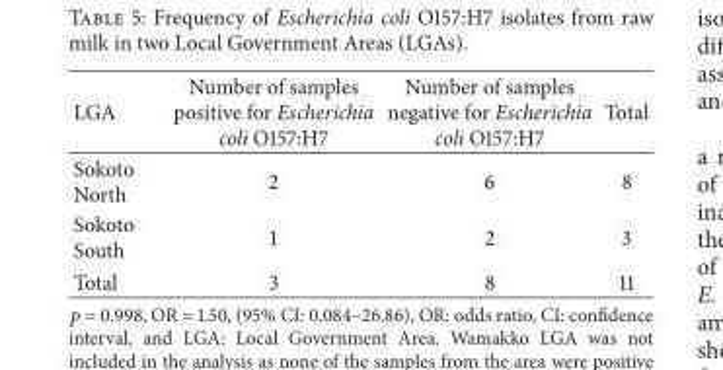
<table><thead><tr><td>LGA</td><td>Number of samples positive for Escherichia coli O157:H7</td><td>Number of samples negative for Escherichia coli O157:H7</td><td>Total</td></tr></thead><tbody><tr><td>Sokoto North</td><td>2</td><td>6</td><td>8</td></tr><tr><td>Sokoto South</td><td>1</td><td>2</td><td>3</td></tr><tr><td>Total</td><td>3</td><td>8</td><td>11</td></tr></tbody></table>